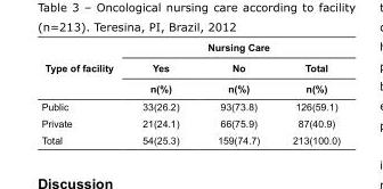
<table><thead><tr><td rowspan="3">Type of facility</td><td colspan="3">Nursing Care</td></tr><tr><td rowspan="2">Yes n(%)</td><td rowspan="2">No n(%)</td><td rowspan="2">Total n(%)</td></tr><tr></tr></thead><tbody><tr><td>Public</td><td>33(26.2)</td><td>93(73.8)</td><td>126(59.1)</td></tr><tr><td>Private</td><td>21(24.1)</td><td>66(75.9)</td><td>87(40.9)</td></tr><tr><td>Total</td><td>54(25.3)</td><td>159(74.7)</td><td>213(100.0)</td></tr></tbody></table>